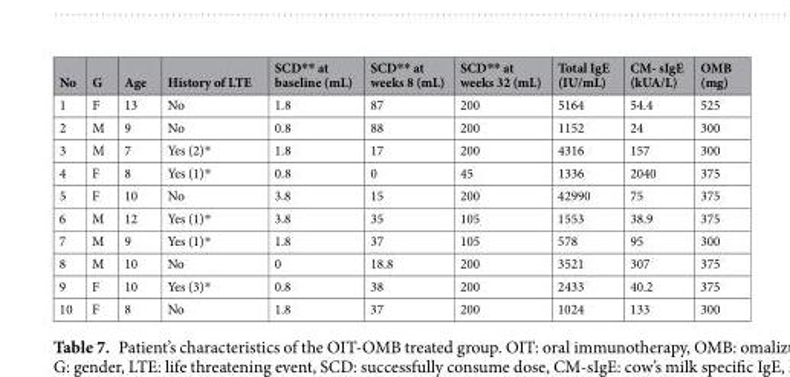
<table><thead><tr><td>No</td><td>G</td><td>Age</td><td>History of LTE</td><td>SCD** at baseline (mL)</td><td>SCD** at weeks 8 (mL)</td><td>SCD** at weeks 32 (mL)</td><td>Total IgE (IU/mL)</td><td>CM- sIgE (kUA/L)</td><td>OMB (mg)</td></tr></thead><tbody><tr><td>1</td><td>F</td><td>13</td><td>No</td><td>1.8</td><td>87</td><td>200</td><td>5164</td><td>54.4</td><td>525</td></tr><tr><td>2</td><td>M</td><td>9</td><td>No</td><td>0.8</td><td>88</td><td>200</td><td>1152</td><td>24</td><td>300</td></tr><tr><td>3</td><td>M</td><td>7</td><td>Yes (2)*</td><td>1.8</td><td>17</td><td>200</td><td>4316</td><td>157</td><td>300</td></tr><tr><td>4</td><td>F</td><td>8</td><td>Yes (1)*</td><td>0.8</td><td>0</td><td>45</td><td>1336</td><td>2040</td><td>375</td></tr><tr><td>5</td><td>F</td><td>10</td><td>No</td><td>3.8</td><td>15</td><td>200</td><td>42990</td><td>75</td><td>375</td></tr><tr><td>6</td><td>M</td><td>12</td><td>Yes (1)*</td><td>3.8</td><td>35</td><td>105</td><td>1553</td><td>38.9</td><td>375</td></tr><tr><td>7</td><td>M</td><td>9</td><td>Yes (1)*</td><td>1.8</td><td>37</td><td>105</td><td>578</td><td>95</td><td>300</td></tr><tr><td>8</td><td>M</td><td>10</td><td>No</td><td>0</td><td>18.8</td><td>200</td><td>3521</td><td>307</td><td>375</td></tr><tr><td>9</td><td>F</td><td>10</td><td>Yes (3)*</td><td>0.8</td><td>38</td><td>200</td><td>2433</td><td>40.2</td><td>375</td></tr><tr><td>10</td><td>F</td><td>8</td><td>No</td><td>1.8</td><td>37</td><td>200</td><td>1024</td><td>133</td><td>300</td></tr></tbody></table>